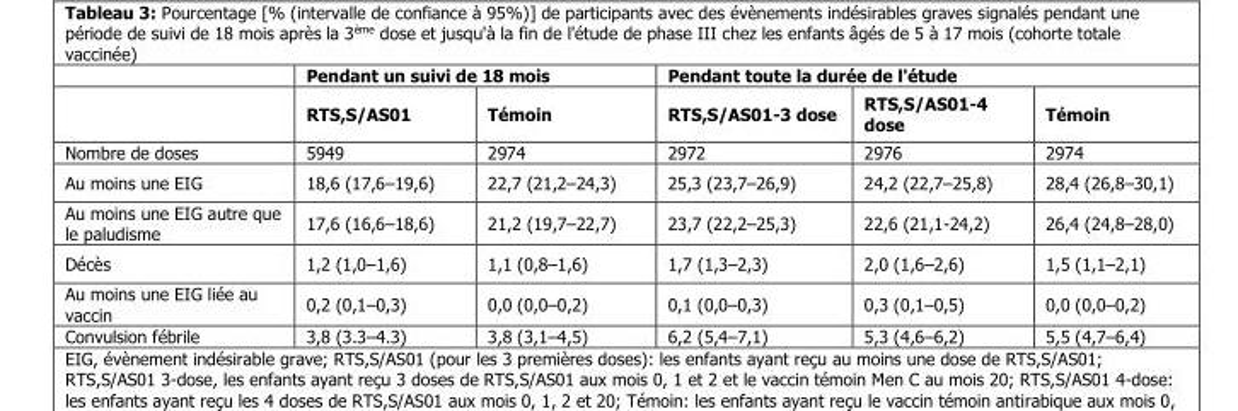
<table><thead><tr><td rowspan="2"></td><td colspan="2">Pendant un suivi de 18 mois</td><td colspan="3">Pendant toute la durée de l&#x27;étude</td></tr><tr><td>RTS,S/AS01</td><td>Témoin</td><td>RTS,S/AS01-3 dose</td><td>RTS,S/AS01-4 dose</td><td>Témoin</td></tr></thead><tbody><tr><td>Nombre de doses</td><td>5949</td><td>2974</td><td>2972</td><td>2976</td><td>2974</td></tr><tr><td>Au moins une EIG</td><td>18,6 (17,6–19,6)</td><td>22,7 (21,2–24,3)</td><td>25,3 (23,7–26,9)</td><td>24,2 (22,7–25,8)</td><td>28,4 (26,8–30,1)</td></tr><tr><td>Au moins une EIG autre que le paludisme</td><td>17,6 (16,6–18,6)</td><td>21,2 (19,7–22,7)</td><td>23,7 (22,2–25,3)</td><td>22,6 (21,1-24,2)</td><td>26,4 (24,8–28,0)</td></tr><tr><td>Décès</td><td>1,2 (1,0–1,6)</td><td>1,1 (0,8–1,6)</td><td>1,7 (1,3–2,3)</td><td>2,0 (1,6–2,6)</td><td>1,5 (1,1–2,1)</td></tr><tr><td>Au moins une EIG liée au vaccin</td><td>0,2 (0,1–0,3)</td><td>0,0 (0,0–0,2)</td><td>0,1 (0,0–0,3)</td><td>0,3 (0,1–0,5)</td><td>0,0 (0,0–0,2)</td></tr><tr><td>Convulsion fébrile</td><td>3,8 (3.3–4.3)</td><td>3,8 (3,1–4,5)</td><td>6,2 (5,4–7,1)</td><td>5,3 (4,6–6,2)</td><td>5,5 (4,7–6,4)</td></tr></tbody></table>